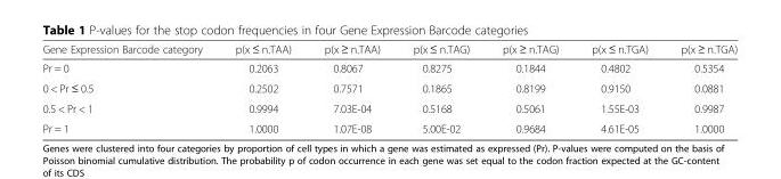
<table><thead><tr><td>Gene Expression Barcode category</td><td>p(x ≤ n.TAA)</td><td>p(x ≥ n.TAA)</td><td>p(x ≤ n.TAG)</td><td>p(x ≥ n.TAG)</td><td>p(x ≤ n.TGA)</td><td>p(x ≥ n.TGA)</td></tr></thead><tbody><tr><td>Pr = 0</td><td>0.2063</td><td>0.8067</td><td>0.8275</td><td>0.1844</td><td>0.4802</td><td>0.5354</td></tr><tr><td>0 &lt; Pr ≤ 0.5</td><td>0.2502</td><td>0.7571</td><td>0.1865</td><td>0.8199</td><td>0.9150</td><td>0.0881</td></tr><tr><td>0.5 &lt; Pr &lt; 1</td><td>0.9994</td><td>7.03E-04</td><td>0.5168</td><td>0.5061</td><td>1.55E-03</td><td>0.9987</td></tr><tr><td>Pr = 1</td><td>1.0000</td><td>1.07E-08</td><td>5.00E-02</td><td>0.9684</td><td>4.61E-05</td><td>1.0000</td></tr></tbody></table>